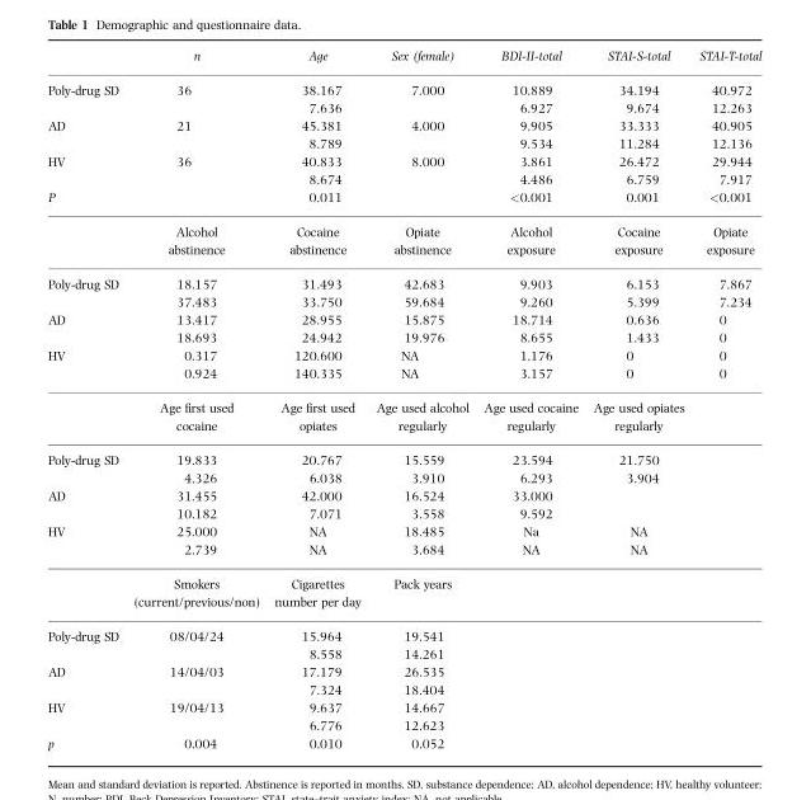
<table><thead><tr><td></td><td>n</td><td>Age</td><td>Sex (female)</td><td>BDI-II-total</td><td>STAI-S-total</td><td>STAI-T-total</td></tr></thead><tbody><tr><td rowspan="2">Poly-drug SD</td><td>36</td><td>38.167</td><td>7.000</td><td>10.889</td><td>34.194</td><td>40.972</td></tr><tr><td></td><td>7.636</td><td></td><td>6.927</td><td>9.674</td><td>12.263</td></tr><tr><td rowspan="2">AD</td><td>21</td><td>45.381</td><td>4.000</td><td>9.905</td><td>33.333</td><td>40.905</td></tr><tr><td></td><td>8.789</td><td></td><td>9.534</td><td>11.284</td><td>12.136</td></tr><tr><td rowspan="2">HV</td><td>36</td><td>40.833</td><td>8.000</td><td>3.861</td><td>26.472</td><td>29.944</td></tr><tr><td></td><td>8.674</td><td></td><td>4.486</td><td>6.759</td><td>7.917</td></tr><tr><td rowspan="2">P</td><td></td><td>0.011</td><td></td><td>&lt;0.001</td><td>0.001</td><td>&lt;0.001</td></tr><tr><td>Alcohol abstinence</td><td>Cocaine abstinence</td><td>Opiate abstinence</td><td>Alcohol exposure</td><td>Cocaine exposure</td><td>Opiate exposure</td></tr><tr><td rowspan="2">Poly-drug SD</td><td>18.157</td><td>31.493</td><td>42.683</td><td>9.903</td><td>6.153</td><td>7.867</td></tr><tr><td>37.483</td><td>33.750</td><td>59.684</td><td>9.260</td><td>5.399</td><td>7.234</td></tr><tr><td rowspan="2">AD</td><td>13.417</td><td>28.955</td><td>15.875</td><td>18.714</td><td>0.636</td><td>0</td></tr><tr><td>18.693</td><td>24.942</td><td>19.976</td><td>8.655</td><td>1.433</td><td>0</td></tr><tr><td rowspan="3">HV</td><td>0.317</td><td>120.600</td><td>NA</td><td>1.176</td><td>0</td><td>0</td></tr><tr><td>0.924</td><td>140.335</td><td>NA</td><td>3.157</td><td>0</td><td>0</td></tr><tr><td>Age first used cocaine</td><td>Age first used opiates</td><td>Age used alcohol regularly</td><td>Age used cocaine regularly</td><td>Age used opiates regularly</td><td></td></tr><tr><td rowspan="2">Poly-drug SD</td><td>19.833</td><td>20.767</td><td>15.559</td><td>23.594</td><td>21.750</td><td></td></tr><tr><td>4.326</td><td>6.038</td><td>3.910</td><td>6.293</td><td>3.904</td><td></td></tr><tr><td rowspan="2">AD</td><td>31.455</td><td>42.000</td><td>16.524</td><td>33.000</td><td></td><td></td></tr><tr><td>10.182</td><td>7.071</td><td>3.558</td><td>9.592</td><td></td><td></td></tr><tr><td rowspan="3">HV</td><td>25.000</td><td>NA</td><td>18.485</td><td>Na</td><td>NA</td><td></td></tr><tr><td>2.739</td><td>NA</td><td>3.684</td><td>NA</td><td>NA</td><td></td></tr><tr><td>Smokers (current/previous/non)</td><td>Cigarettes number per day</td><td>Pack years</td><td></td><td></td><td></td></tr><tr><td rowspan="2">Poly-drug SD</td><td>08/04/24</td><td>15.964</td><td>19.541</td><td></td><td></td><td></td></tr><tr><td></td><td>8.558</td><td>14.261</td><td></td><td></td><td></td></tr><tr><td rowspan="2">AD</td><td>14/04/03</td><td>17.179</td><td>26.535</td><td></td><td></td><td></td></tr><tr><td></td><td>7.324</td><td>18.404</td><td></td><td></td><td></td></tr><tr><td rowspan="2">HV</td><td>19/04/13</td><td>9.637</td><td>14.667</td><td></td><td></td><td></td></tr><tr><td></td><td>6.776</td><td>12.623</td><td></td><td></td><td></td></tr><tr><td>p</td><td>0.004</td><td>0.010</td><td>0.052</td><td></td><td></td><td></td></tr></tbody></table>